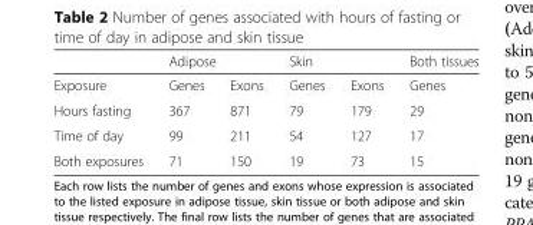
<table><thead><tr><td rowspan="2">Exposure</td><td colspan="2">Adipose</td><td colspan="2">Skin</td><td rowspan="2">Both tissues Genes</td></tr><tr><td>Genes</td><td>Exons</td><td>Genes</td><td>Exons</td></tr></thead><tbody><tr><td>Hours fasting</td><td>367</td><td>871</td><td>79</td><td>179</td><td>29</td></tr><tr><td>Time of day</td><td>99</td><td>211</td><td>54</td><td>127</td><td>17</td></tr><tr><td>Both exposures</td><td>71</td><td>150</td><td>19</td><td>73</td><td>15</td></tr></tbody></table>